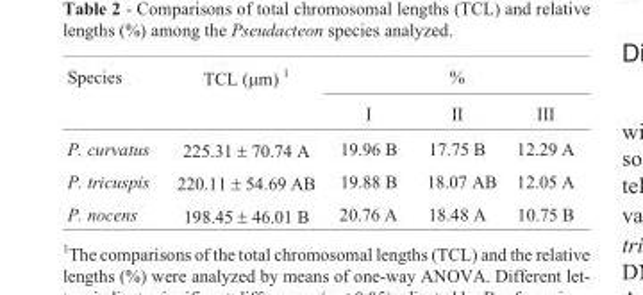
<table><thead><tr><td rowspan="2">Species</td><td rowspan="2">TCL (μm) <sup>1</sup></td><td colspan="3">%</td></tr><tr><td>I</td><td>II</td><td>III</td></tr></thead><tbody><tr><td>P. curvatus</td><td>225.31 ± 70.74 A</td><td>19.96 B</td><td>17.75 B</td><td>12.29 A</td></tr><tr><td>P. tricuspis</td><td>220.11 ± 54.69 AB</td><td>19.88 B</td><td>18.07 AB</td><td>12.05 A</td></tr><tr><td>P. nocens</td><td>198.45 ± 46.01 B</td><td>20.76 A</td><td>18.48 A</td><td>10.75 B</td></tr></tbody></table>